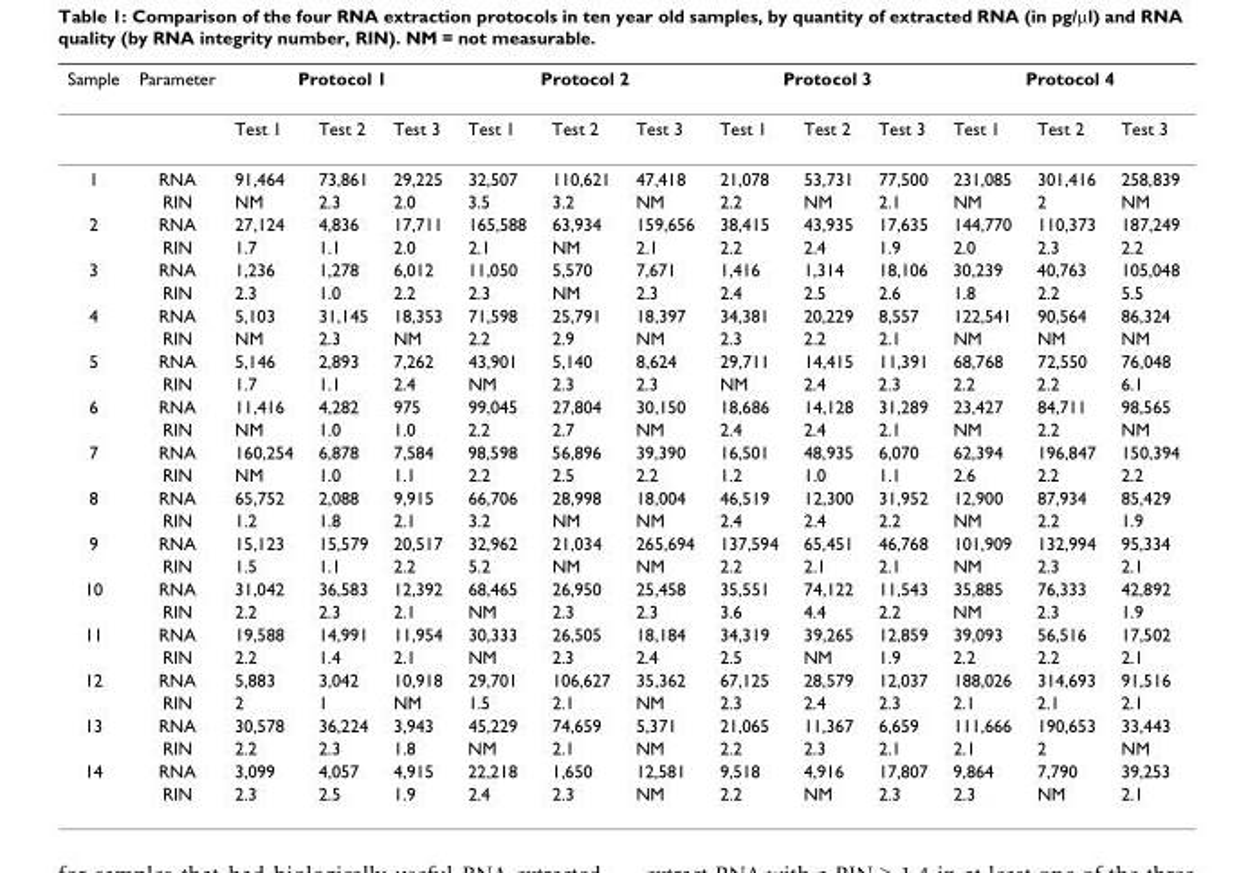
<table><thead><tr><td rowspan="2">Sample</td><td rowspan="2">Parameter</td><td colspan="3">Protocol 1</td><td colspan="3">Protocol 2</td><td colspan="3">Protocol 3</td><td colspan="3">Protocol 4</td></tr><tr><td>Test 1</td><td>Test 2</td><td>Test 3</td><td>Test 1</td><td>Test 2</td><td>Test 3</td><td>Test 1</td><td>Test 2</td><td>Test 3</td><td>Test 1</td><td>Test 2</td><td>Test 3</td></tr></thead><tbody><tr><td rowspan="2">1</td><td>RNA</td><td>91,464</td><td>73,861</td><td>29,225</td><td>32,507</td><td>110,621</td><td>47,418</td><td>21,078</td><td>53,731</td><td>77,500</td><td>231,085</td><td>301,416</td><td>258,839</td></tr><tr><td>RIN</td><td>NM</td><td>2.3</td><td>2.0</td><td>3.5</td><td>3.2</td><td>NM</td><td>2.2</td><td>NM</td><td>2.1</td><td>NM</td><td>2</td><td>NM</td></tr><tr><td rowspan="2">2</td><td>RNA</td><td>27,124</td><td>4,836</td><td>17,711</td><td>165,588</td><td>63,934</td><td>159,656</td><td>38,415</td><td>43,935</td><td>17,635</td><td>144,770</td><td>110,373</td><td>187,249</td></tr><tr><td>RIN</td><td>1.7</td><td>1.1</td><td>2.0</td><td>2.1</td><td>NM</td><td>2.1</td><td>2.2</td><td>2.4</td><td>1.9</td><td>2.0</td><td>2.3</td><td>2.2</td></tr><tr><td rowspan="2">3</td><td>RNA</td><td>1,236</td><td>1,278</td><td>6,012</td><td>11,050</td><td>5,570</td><td>7,671</td><td>1,416</td><td>1,314</td><td>18,106</td><td>30,239</td><td>40,763</td><td>105,048</td></tr><tr><td>RIN</td><td>2.3</td><td>1.0</td><td>2.2</td><td>2.3</td><td>NM</td><td>2.3</td><td>2.4</td><td>2.5</td><td>2.6</td><td>1.8</td><td>2.2</td><td>5.5</td></tr><tr><td rowspan="2">4</td><td>RNA</td><td>5,103</td><td>31,145</td><td>18,353</td><td>71,598</td><td>25,791</td><td>18,397</td><td>34,381</td><td>20,229</td><td>8,557</td><td>122,541</td><td>90,564</td><td>86,324</td></tr><tr><td>RIN</td><td>NM</td><td>2.3</td><td>NM</td><td>2.2</td><td>2.9</td><td>NM</td><td>2.3</td><td>2.2</td><td>2.1</td><td>NM</td><td>NM</td><td>NM</td></tr><tr><td rowspan="2">5</td><td>RNA</td><td>5,146</td><td>2,893</td><td>7,262</td><td>43,901</td><td>5,140</td><td>8,624</td><td>29,711</td><td>14,415</td><td>11,391</td><td>68,768</td><td>72,550</td><td>76,048</td></tr><tr><td>RIN</td><td>1.7</td><td>1.1</td><td>2.4</td><td>NM</td><td>2.3</td><td>2.3</td><td>NM</td><td>2.4</td><td>2.3</td><td>2.2</td><td>2.2</td><td>6.1</td></tr><tr><td rowspan="2">6</td><td>RNA</td><td>11,416</td><td>4,282</td><td>975</td><td>99,045</td><td>27,804</td><td>30,150</td><td>18,686</td><td>14,128</td><td>31,289</td><td>23,427</td><td>84,711</td><td>98,565</td></tr><tr><td>RIN</td><td>NM</td><td>1.0</td><td>1.0</td><td>2.2</td><td>2.7</td><td>NM</td><td>2.4</td><td>2.4</td><td>2.1</td><td>NM</td><td>2.2</td><td>NM</td></tr><tr><td rowspan="2">7</td><td>RNA</td><td>160,254</td><td>6,878</td><td>7,584</td><td>98,598</td><td>56,896</td><td>39,390</td><td>16,501</td><td>48,935</td><td>6,070</td><td>62,394</td><td>196,847</td><td>150,394</td></tr><tr><td>RIN</td><td>NM</td><td>1.0</td><td>1.1</td><td>2.2</td><td>2.5</td><td>2.2</td><td>1.2</td><td>1.0</td><td>1.1</td><td>2.6</td><td>2.2</td><td>2.2</td></tr><tr><td rowspan="2">8</td><td>RNA</td><td>65,752</td><td>2,088</td><td>9,915</td><td>66,706</td><td>28,998</td><td>18,004</td><td>46,519</td><td>12,300</td><td>31,952</td><td>12,900</td><td>87,934</td><td>85,429</td></tr><tr><td>RIN</td><td>1.2</td><td>1.8</td><td>2.1</td><td>3.2</td><td>NM</td><td>NM</td><td>2.4</td><td>2.4</td><td>2.2</td><td>NM</td><td>2.2</td><td>1.9</td></tr><tr><td rowspan="2">9</td><td>RNA</td><td>15,123</td><td>15,579</td><td>20,517</td><td>32,962</td><td>21,034</td><td>265,694</td><td>137,594</td><td>65,451</td><td>46,768</td><td>101,909</td><td>132,994</td><td>95,334</td></tr><tr><td>RIN</td><td>1.5</td><td>1.1</td><td>2.2</td><td>5.2</td><td>NM</td><td>NM</td><td>2.2</td><td>2.1</td><td>2.1</td><td>NM</td><td>2.3</td><td>2.1</td></tr><tr><td rowspan="2">10</td><td>RNA</td><td>31,042</td><td>36,583</td><td>12,392</td><td>68,465</td><td>26,950</td><td>25,458</td><td>35,551</td><td>74,122</td><td>11,543</td><td>35,885</td><td>76,333</td><td>42,892</td></tr><tr><td>RIN</td><td>2.2</td><td>2.3</td><td>2.1</td><td>NM</td><td>2.3</td><td>2.3</td><td>3.6</td><td>4.4</td><td>2.2</td><td>NM</td><td>2.3</td><td>1.9</td></tr><tr><td rowspan="2">11</td><td>RNA</td><td>19,588</td><td>14,991</td><td>11,954</td><td>30,333</td><td>26,505</td><td>18,184</td><td>34,319</td><td>39,265</td><td>12,859</td><td>39,093</td><td>56,516</td><td>17,502</td></tr><tr><td>RIN</td><td>2.2</td><td>1.4</td><td>2.1</td><td>NM</td><td>2.3</td><td>2.4</td><td>2.5</td><td>NM</td><td>1.9</td><td>2.2</td><td>2.2</td><td>2.1</td></tr><tr><td rowspan="2">12</td><td>RNA</td><td>5,883</td><td>3,042</td><td>10,918</td><td>29,701</td><td>106,627</td><td>35,362</td><td>67,125</td><td>28,579</td><td>12,037</td><td>188,026</td><td>314,693</td><td>91,516</td></tr><tr><td>RIN</td><td>2</td><td>1</td><td>NM</td><td>1.5</td><td>2.1</td><td>NM</td><td>2.3</td><td>2.4</td><td>2.3</td><td>2.1</td><td>2.1</td><td>2.1</td></tr><tr><td rowspan="2">13</td><td>RNA</td><td>30,578</td><td>36,224</td><td>3,943</td><td>45,229</td><td>74,659</td><td>5,371</td><td>21,065</td><td>11,367</td><td>6,659</td><td>111,666</td><td>190,653</td><td>33,443</td></tr><tr><td>RIN</td><td>2.2</td><td>2.3</td><td>1.8</td><td>NM</td><td>2.1</td><td>NM</td><td>2.2</td><td>2.3</td><td>2.1</td><td>2.1</td><td>2</td><td>NM</td></tr><tr><td rowspan="2">14</td><td>RNA</td><td>3,099</td><td>4,057</td><td>4,915</td><td>22,218</td><td>1,650</td><td>12,581</td><td>9,518</td><td>4,916</td><td>17,807</td><td>9,864</td><td>7,790</td><td>39,253</td></tr><tr><td>RIN</td><td>2.3</td><td>2.5</td><td>1.9</td><td>2.4</td><td>2.3</td><td>NM</td><td>2.2</td><td>NM</td><td>2.3</td><td>2.3</td><td>NM</td><td>2.1</td></tr></tbody></table>